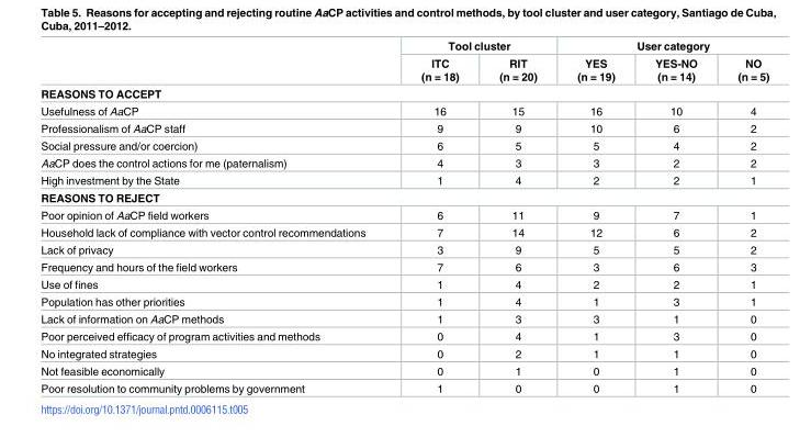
<table><thead><tr><td rowspan="2"></td><td colspan="2">Tool cluster</td><td colspan="3">User category</td></tr><tr><td>ITC (n = 18)</td><td>RIT (n = 20)</td><td>YES (n = 19)</td><td>YES-NO (n = 14)</td><td>NO (n = 5)</td></tr></thead><tbody><tr><td colspan="6">REASONS TO ACCEPT</td></tr><tr><td>Usefulness of AaCP</td><td>16</td><td>15</td><td>16</td><td>10</td><td>4</td></tr><tr><td>Professionalism of AaCP staff</td><td>9</td><td>9</td><td>10</td><td>6</td><td>2</td></tr><tr><td>Social pressure and/or coercion)</td><td>6</td><td>5</td><td>5</td><td>4</td><td>2</td></tr><tr><td>AaCP does the control actions for me (paternalism)</td><td>4</td><td>3</td><td>3</td><td>2</td><td>2</td></tr><tr><td>High investment by the State</td><td>1</td><td>4</td><td>2</td><td>2</td><td>1</td></tr><tr><td colspan="6">REASONS TO REJECT</td></tr><tr><td>Poor opinion of AaCP field workers</td><td>6</td><td>11</td><td>9</td><td>7</td><td>1</td></tr><tr><td>Household lack of compliance with vector control recommendations</td><td>7</td><td>14</td><td>12</td><td>6</td><td>2</td></tr><tr><td>Lack of privacy</td><td>3</td><td>9</td><td>5</td><td>5</td><td>2</td></tr><tr><td>Frequency and hours of the field workers</td><td>7</td><td>6</td><td>3</td><td>6</td><td>3</td></tr><tr><td>Use of fines</td><td>1</td><td>4</td><td>2</td><td>2</td><td>1</td></tr><tr><td>Population has other priorities</td><td>1</td><td>4</td><td>1</td><td>3</td><td>1</td></tr><tr><td>Lack of information on AaCP methods</td><td>1</td><td>3</td><td>3</td><td>1</td><td>0</td></tr><tr><td>Poor perceived efficacy of program activities and methods</td><td>0</td><td>4</td><td>1</td><td>3</td><td>0</td></tr><tr><td>No integrated strategies</td><td>0</td><td>2</td><td>1</td><td>1</td><td>0</td></tr><tr><td>Not feasible economically</td><td>0</td><td>1</td><td>0</td><td>1</td><td>0</td></tr><tr><td>Poor resolution to community problems by government</td><td>1</td><td>0</td><td>0</td><td>1</td><td>0</td></tr></tbody></table>